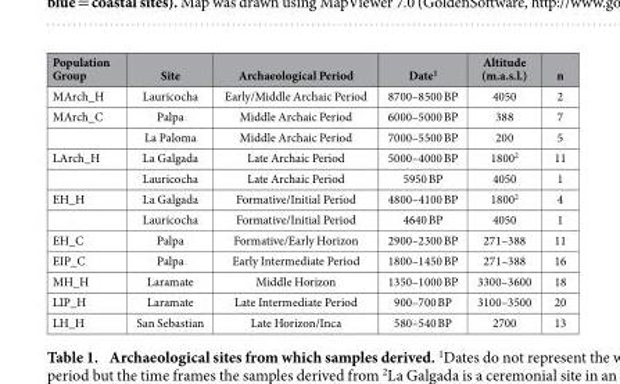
<table><thead><tr><td>Population Group</td><td>Site</td><td>Archaeological Period</td><td>Date<sup>1</sup></td><td>Altitude (m.a.s.l.)</td><td>n</td></tr></thead><tbody><tr><td>MArch_H</td><td>Lauricocha</td><td>Early/Middle Archaic Period</td><td>8700–8500 BP</td><td>4050</td><td>2</td></tr><tr><td rowspan="2">MArch_C</td><td>Palpa</td><td>Middle Archaic Period</td><td>6000–5000 BP</td><td>388</td><td>7</td></tr><tr><td>La Paloma</td><td>Middle Archaic Period</td><td>7000–5500 BP</td><td>200</td><td>5</td></tr><tr><td rowspan="2">LArch_H</td><td>La Galgada</td><td>Late Archaic Period</td><td>5000–4000 BP</td><td>1800<sup>2</sup></td><td>11</td></tr><tr><td>Lauricocha</td><td>Late Archaic Period</td><td>5950 BP</td><td>4050</td><td>1</td></tr><tr><td rowspan="2">EH_H</td><td>La Galgada</td><td>Formative/Initial Period</td><td>4800–4100 BP</td><td>1800<sup>2</sup></td><td>4</td></tr><tr><td>Lauricocha</td><td>Formative/Initial Period</td><td>4640 BP</td><td>4050</td><td>1</td></tr><tr><td>EH_C</td><td>Palpa</td><td>Formative/Early Horizon</td><td>2900–2300 BP</td><td>271–388</td><td>11</td></tr><tr><td>EIP_C</td><td>Palpa</td><td>Early Intermediate Period</td><td>1800–1450 BP</td><td>271–388</td><td>16</td></tr><tr><td>MH_H</td><td>Laramate</td><td>Middle Horizon</td><td>1350–1000 BP</td><td>3300–3600</td><td>18</td></tr><tr><td>LIP_H</td><td>Laramate</td><td>Late Intermediate Period</td><td>900–700 BP</td><td>3100–3500</td><td>20</td></tr><tr><td>LH_H</td><td>San Sebastian</td><td>Late Horizon/Inca</td><td>580–540 BP</td><td>2700</td><td>13</td></tr></tbody></table>